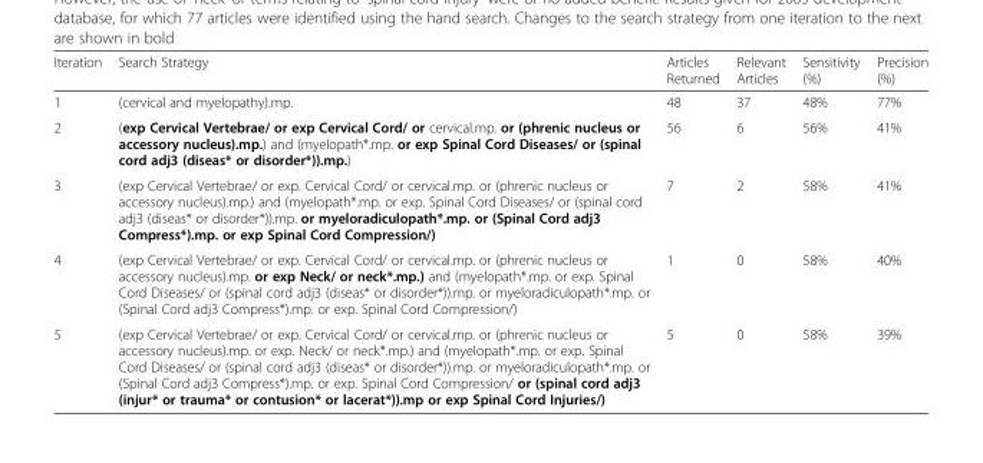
<table><thead><tr><td>Iteration</td><td>Search Strategy</td><td>Articles Returned</td><td>Relevant Articles</td><td>Sensitivity (%)</td><td>Precision (%)</td></tr></thead><tbody><tr><td>1</td><td>(cervical and myelopathy).mp.</td><td>48</td><td>37</td><td>48%</td><td>77%</td></tr><tr><td>2</td><td>(exp Cervical Vertebrae/ or exp Cervical Cord/ or cervical.mp. or (phrenic nucleus or accessory nucleus).mp.) and (myelopath*.mp. or exp Spinal Cord Diseases/ or (spinal cord adj3 (diseas* or disorder*)).mp.)</td><td>56</td><td>6</td><td>56%</td><td>41%</td></tr><tr><td>3</td><td>(exp Cervical Vertebrae/ or exp. Cervical Cord/ or cervical.mp. or (phrenic nucleus or accessory nucleus).mp.) and (myelopath*.mp. or exp. Spinal Cord Diseases/ or (spinal cord adj3 (diseas* or disorder*)).mp. or myeloradiculopath*.mp. or (Spinal Cord adj3 Compress*).mp. or exp Spinal Cord Compression/)</td><td>7</td><td>2</td><td>58%</td><td>41%</td></tr><tr><td>4</td><td>(exp Cervical Vertebrae/ or exp. Cervical Cord/ or cervical.mp. or (phrenic nucleus or accessory nucleus).mp. or exp Neck/ or neck*.mp.) and (myelopath*.mp. or exp. Spinal Cord Diseases/ or (spinal cord adj3 (diseas* or disorder*)).mp. or myeloradiculopath*.mp. or (Spinal Cord adj3 Compress*).mp. or exp. Spinal Cord Compression/)</td><td>1</td><td>0</td><td>58%</td><td>40%</td></tr><tr><td>5</td><td>(exp Cervical Vertebrae/ or exp. Cervical Cord/ or cervical.mp. or (phrenic nucleus or accessory nucleus).mp. or exp. Neck/ or neck*.mp.) and (myelopath*.mp. or exp. Spinal Cord Diseases/ or (spinal cord adj3 (diseas* or disorder*)).mp. or myeloradiculopath*.mp. or (Spinal Cord adj3 Compress*).mp. or exp. Spinal Cord Compression/ or (spinal cord adj3 (injur* or trauma* or contusion* or lacerat*)).mp or exp Spinal Cord Injuries/)</td><td>5</td><td>0</td><td>58%</td><td>39%</td></tr></tbody></table>